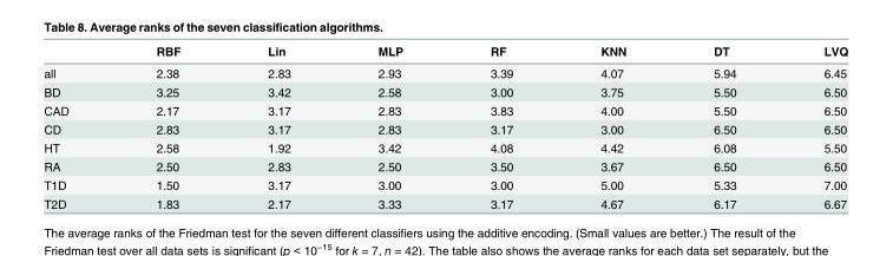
<table><thead><tr><td></td><td>RBF</td><td>Lin</td><td>MLP</td><td>RF</td><td>KNN</td><td>DT</td><td>LVQ</td></tr></thead><tbody><tr><td>all</td><td>2.38</td><td>2.83</td><td>2.93</td><td>3.39</td><td>4.07</td><td>5.94</td><td>6.45</td></tr><tr><td>BD</td><td>3.25</td><td>3.42</td><td>2.58</td><td>3.00</td><td>3.75</td><td>5.50</td><td>6.50</td></tr><tr><td>CAD</td><td>2.17</td><td>3.17</td><td>2.83</td><td>3.83</td><td>4.00</td><td>5.50</td><td>6.50</td></tr><tr><td>CD</td><td>2.83</td><td>3.17</td><td>2.83</td><td>3.17</td><td>3.00</td><td>6.50</td><td>6.50</td></tr><tr><td>HT</td><td>2.58</td><td>1.92</td><td>3.42</td><td>4.08</td><td>4.42</td><td>6.08</td><td>5.50</td></tr><tr><td>RA</td><td>2.50</td><td>2.83</td><td>2.50</td><td>3.50</td><td>3.67</td><td>6.50</td><td>6.50</td></tr><tr><td>T1D</td><td>1.50</td><td>3.17</td><td>3.00</td><td>3.00</td><td>5.00</td><td>5.33</td><td>7.00</td></tr><tr><td>T2D</td><td>1.83</td><td>2.17</td><td>3.33</td><td>3.17</td><td>4.67</td><td>6.17</td><td>6.67</td></tr></tbody></table>